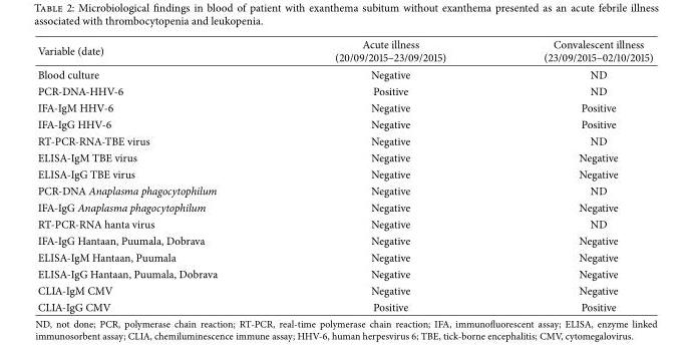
<table><thead><tr><td>Variable (date)</td><td>Acute illness (20/09/2015–23/09/2015)</td><td>Convalescent illness (23/09/2015–02/10/2015)</td></tr></thead><tbody><tr><td>Blood culture</td><td>Negative</td><td>ND</td></tr><tr><td>PCR-DNA-HHV-6</td><td>Positive</td><td>ND</td></tr><tr><td>IFA-IgM HHV-6</td><td>Negative</td><td>Positive</td></tr><tr><td>IFA-IgG HHV-6</td><td>Negative</td><td>Positive</td></tr><tr><td>RT-PCR-RNA-TBE virus</td><td>Negative</td><td>ND</td></tr><tr><td>ELISA-IgM TBE virus</td><td>Negative</td><td>Negative</td></tr><tr><td>ELISA-IgG TBE virus</td><td>Negative</td><td>Negative</td></tr><tr><td>PCR-DNA Anaplasma phagocytophilum</td><td>Negative</td><td>ND</td></tr><tr><td>IFA-IgG Anaplasma phagocytophilum</td><td>Negative</td><td>Negative</td></tr><tr><td>RT-PCR-RNA hanta virus</td><td>Negative</td><td>ND</td></tr><tr><td>IFA-IgG Hantaan, Puumala, Dobrava</td><td>Negative</td><td>Negative</td></tr><tr><td>ELISA-IgM Hantaan, Puumala</td><td>Negative</td><td>Negative</td></tr><tr><td>ELISA-IgG Hantaan, Puumala, Dobrava</td><td>Negative</td><td>Negative</td></tr><tr><td>CLIA-IgM CMV</td><td>Negative</td><td>Negative</td></tr><tr><td>CLIA-IgG CMV</td><td>Positive</td><td>Positive</td></tr></tbody></table>